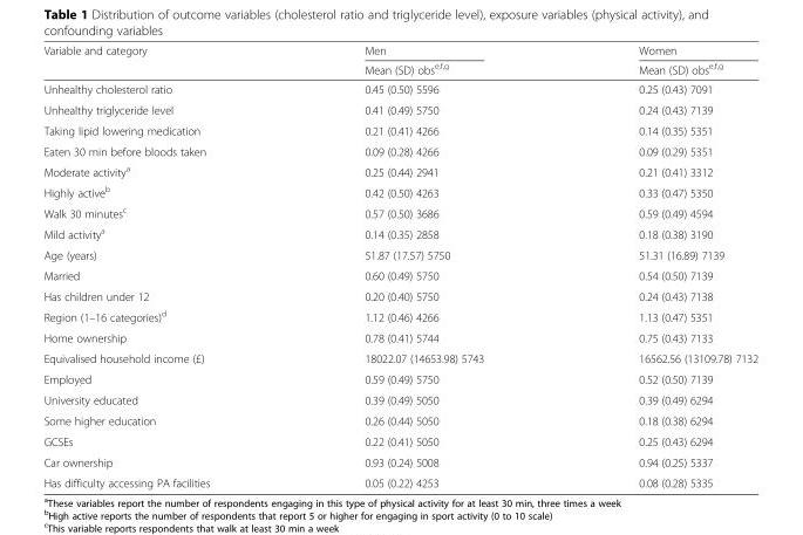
<table><thead><tr><td rowspan="2">Variable and category</td><td rowspan="2">Men Mean (SD) obse,f,g</td><td rowspan="2">Women Mean (SD) obse,f,g</td></tr><tr></tr></thead><tbody><tr><td>Unhealthy cholesterol ratio</td><td>0.45 (0.50) 5596</td><td>0.25 (0.43) 7091</td></tr><tr><td>Unhealthy triglyceride level</td><td>0.41 (0.49) 5750</td><td>0.24 (0.43) 7139</td></tr><tr><td>Taking lipid lowering medication</td><td>0.21 (0.41) 4266</td><td>0.14 (0.35) 5351</td></tr><tr><td>Eaten 30 min before bloods taken</td><td>0.09 (0.28) 4266</td><td>0.09 (0.29) 5351</td></tr><tr><td>Moderate activitya</td><td>0.25 (0.44) 2941</td><td>0.21 (0.41) 3312</td></tr><tr><td>Highly activeb</td><td>0.42 (0.50) 4263</td><td>0.33 (0.47) 5350</td></tr><tr><td>Walk 30 minutesc</td><td>0.57 (0.50) 3686</td><td>0.59 (0.49) 4594</td></tr><tr><td>Mild activitya</td><td>0.14 (0.35) 2858</td><td>0.18 (0.38) 3190</td></tr><tr><td>Age (years)</td><td>51.87 (17.57) 5750</td><td>51.31 (16.89) 7139</td></tr><tr><td>Married</td><td>0.60 (0.49) 5750</td><td>0.54 (0.50) 7139</td></tr><tr><td>Has children under 12</td><td>0.20 (0.40) 5750</td><td>0.24 (0.43) 7138</td></tr><tr><td>Region (1–16 categories)d</td><td>1.12 (0.46) 4266</td><td>1.13 (0.47) 5351</td></tr><tr><td>Home ownership</td><td>0.78 (0.41) 5744</td><td>0.75 (0.43) 7133</td></tr><tr><td>Equivalised household income (£)</td><td>18022.07 (14653.98) 5743</td><td>16562.56 (13109.78) 7132</td></tr><tr><td>Employed</td><td>0.59 (0.49) 5750</td><td>0.52 (0.50) 7139</td></tr><tr><td>University educated</td><td>0.39 (0.49) 5050</td><td>0.39 (0.49) 6294</td></tr><tr><td>Some higher education</td><td>0.26 (0.44) 5050</td><td>0.18 (0.38) 6294</td></tr><tr><td>GCSEs</td><td>0.22 (0.41) 5050</td><td>0.25 (0.43) 6294</td></tr><tr><td>Car ownership</td><td>0.93 (0.24) 5008</td><td>0.94 (0.25) 5337</td></tr><tr><td>Has difficulty accessing PA facilities</td><td>0.05 (0.22) 4253</td><td>0.08 (0.28) 5335</td></tr></tbody></table>